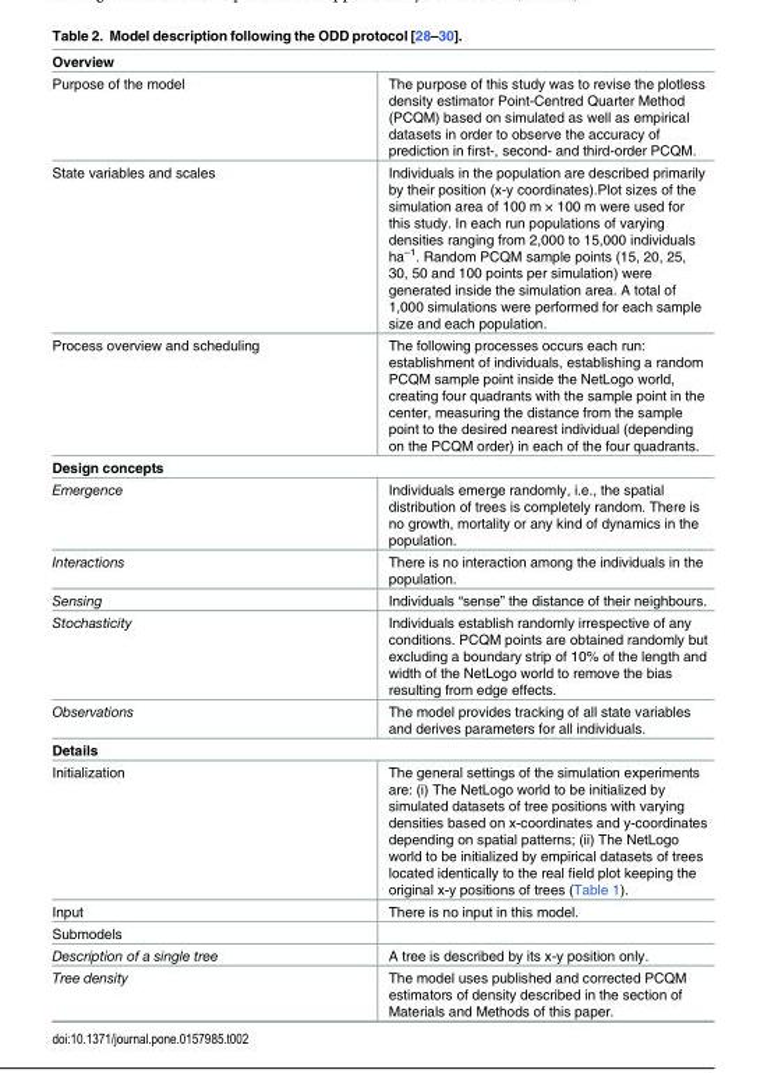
<table><tbody><tr><td colspan="2">Overview</td></tr><tr><td>Purpose of the model</td><td>The purpose of this study was to revise the plotless density estimator Point-Centred Quarter Method (PCQM) based on simulated as well as empirical datasets in order to observe the accuracy of prediction in first-, second- and third-order PCQM.</td></tr><tr><td>State variables and scales</td><td>Individuals in the population are described primarily by their position (x-y coordinates).Plot sizes of the simulation area of 100 m × 100 m were used for this study. In each run populations of varying densities ranging from 2,000 to 15,000 individuals ha<sup>–1</sup>. Random PCQM sample points (15, 20, 25, 30, 50 and 100 points per simulation) were generated inside the simulation area. A total of 1,000 simulations were performed for each sample size and each population.</td></tr><tr><td>Process overview and scheduling</td><td>The following processes occurs each run: establishment of individuals, establishing a random PCQM sample point inside the NetLogo world, creating four quadrants with the sample point in the center, measuring the distance from the sample point to the desired nearest individual (depending on the PCQM order) in each of the four quadrants.</td></tr><tr><td colspan="2">Design concepts</td></tr><tr><td>Emergence</td><td>Individuals emerge randomly, i.e., the spatial distribution of trees is completely random. There is no growth, mortality or any kind of dynamics in the population.</td></tr><tr><td>Interactions</td><td>There is no interaction among the individuals in the population.</td></tr><tr><td>Sensing</td><td>Individuals “sense” the distance of their neighbours.</td></tr><tr><td>Stochasticity</td><td>Individuals establish randomly irrespective of any conditions. PCQM points are obtained randomly but excluding a boundary strip of 10% of the length and width of the NetLogo world to remove the bias resulting from edge effects.</td></tr><tr><td>Observations</td><td>The model provides tracking of all state variables and derives parameters for all individuals.</td></tr><tr><td colspan="2">Details</td></tr><tr><td>Initialization</td><td>The general settings of the simulation experiments are: (i) The NetLogo world to be initialized by simulated datasets of tree positions with varying densities based on x-coordinates and y-coordinates depending on spatial patterns; (ii) The NetLogo world to be initialized by empirical datasets of trees located identically to the real field plot keeping the original x-y positions of trees (Table 1).</td></tr><tr><td>Input</td><td>There is no input in this model.</td></tr><tr><td colspan="2">Submodels</td></tr><tr><td>Description of a single tree</td><td>A tree is described by its x-y position only.</td></tr><tr><td>Tree density</td><td>The model uses published and corrected PCQM estimators of density described in the section of Materials and Methods of this paper.</td></tr></tbody></table>